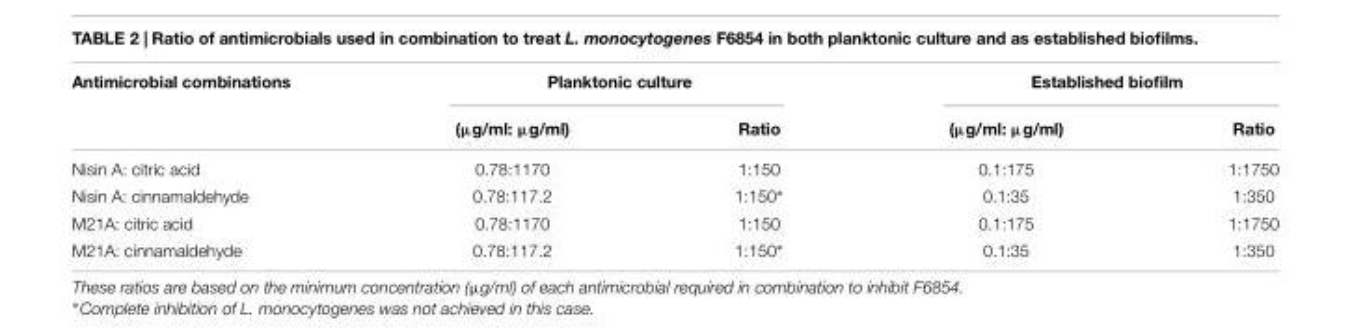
<table><thead><tr><td rowspan="2">Antimicrobial combinations</td><td colspan="2">Planktonic culture</td><td colspan="2">Established biofilm</td></tr><tr><td>(µg/ml: µg/ml)</td><td>Ratio</td><td>(µg/ml: µg/ml)</td><td>Ratio</td></tr></thead><tbody><tr><td>Nisin A: citric acid</td><td>0.78:1170</td><td>1:150</td><td>0.1:175</td><td>1:1750</td></tr><tr><td>Nisin A: cinnamaldehyde</td><td>0.78:117.2</td><td>1:150∗</td><td>0.1:35</td><td>1:350</td></tr><tr><td>M21A: citric acid</td><td>0.78:1170</td><td>1:150</td><td>0.1:175</td><td>1:1750</td></tr><tr><td>M21A: cinnamaldehyde</td><td>0.78:117.2</td><td>1:150∗</td><td>0.1:35</td><td>1:350</td></tr></tbody></table>